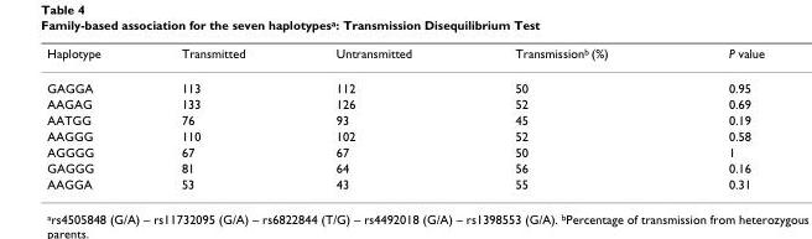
<table><thead><tr><td>Haplotype</td><td>Transmitted</td><td>Untransmitted</td><td>Transmission<sup>b</sup> (%)</td><td>P value</td></tr></thead><tbody><tr><td>GAGGA</td><td>113</td><td>112</td><td>50</td><td>0.95</td></tr><tr><td>AAGAG</td><td>133</td><td>126</td><td>52</td><td>0.69</td></tr><tr><td>AATGG</td><td>76</td><td>93</td><td>45</td><td>0.19</td></tr><tr><td>AAGGG</td><td>110</td><td>102</td><td>52</td><td>0.58</td></tr><tr><td>AGGGG</td><td>67</td><td>67</td><td>50</td><td>1</td></tr><tr><td>GAGGG</td><td>81</td><td>64</td><td>56</td><td>0.16</td></tr><tr><td>AAGGA</td><td>53</td><td>43</td><td>55</td><td>0.31</td></tr></tbody></table>